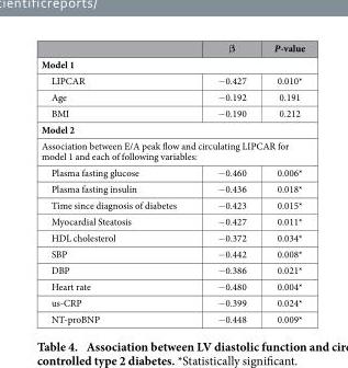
<table><thead><tr><td></td><td>β</td><td>P-value</td></tr></thead><tbody><tr><td colspan="3">Model 1</td></tr><tr><td>LIPCAR</td><td>− 0.427</td><td>0.010*</td></tr><tr><td>Age</td><td>− 0.192</td><td>0.191</td></tr><tr><td>BMI</td><td>− 0.190</td><td>0.212</td></tr><tr><td colspan="3">Model 2</td></tr><tr><td colspan="3">Association between E/A peak flow and circulating LIPCAR for model 1 and each of following variables:</td></tr><tr><td>Plasma fasting glucose</td><td>− 0.460</td><td>0.006*</td></tr><tr><td>Plasma fasting insulin</td><td>− 0.436</td><td>0.018*</td></tr><tr><td>Time since diagnosis of diabetes</td><td>− 0.423</td><td>0.015*</td></tr><tr><td>Myocardial Steatosis</td><td>− 0.427</td><td>0.011*</td></tr><tr><td>HDL cholesterol</td><td>− 0.372</td><td>0.034*</td></tr><tr><td>SBP</td><td>− 0.442</td><td>0.008*</td></tr><tr><td>DBP</td><td>− 0.386</td><td>0.021*</td></tr><tr><td>Heart rate</td><td>− 0.480</td><td>0.004*</td></tr><tr><td>us-CRP</td><td>− 0.399</td><td>0.024*</td></tr><tr><td>NT-proBNP</td><td>− 0.448</td><td>0.009*</td></tr></tbody></table>